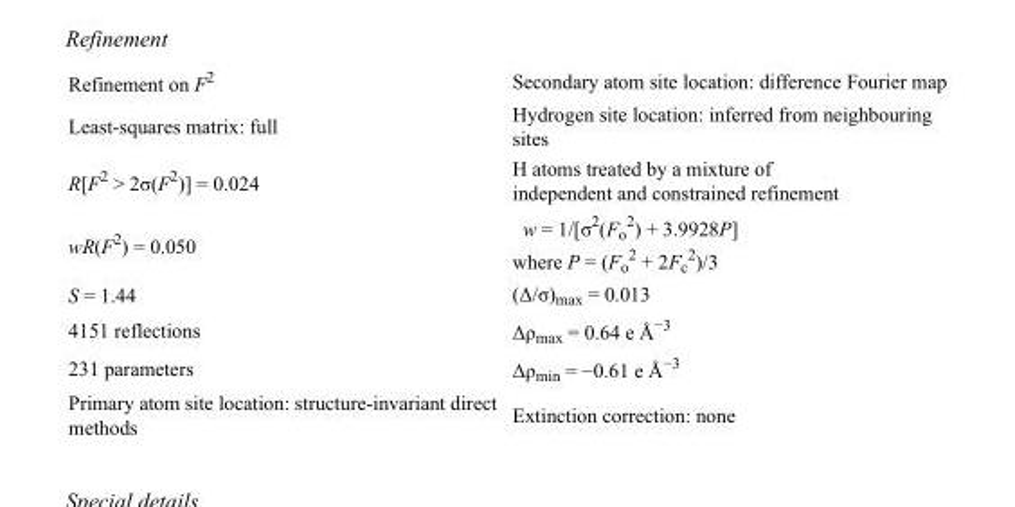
<table><tbody><tr><td>Refinement on F<sup>2</sup></td><td>Secondary atom site location: difference Fourier map</td></tr><tr><td>Least-squares matrix: full</td><td>Hydrogen site location: inferred from neighbouring sites</td></tr><tr><td>R[F<sup>2</sup> &gt; 2σ(F<sup>2</sup>)] = 0.024</td><td>H atoms treated by a mixture of independent and constrained refinement</td></tr><tr><td>wR(F<sup>2</sup>) = 0.050</td><td>w = 1/[σ<sup>2</sup>(F<sub>o</sub> <sup>2</sup>) + 3.9928P] where P = (F<sub>o</sub> <sup>2</sup> + 2F<sub>c</sub> <sup>2</sup>)/3</td></tr><tr><td>S = 1.44</td><td>(Δ/σ)<sub>max</sub> = 0.013</td></tr><tr><td>4151 reflections</td><td>Δρ<sub>max</sub> = 0.64 e Å<sup>−3</sup></td></tr><tr><td>231 parameters</td><td>Δρ<sub>min</sub> = −0.61 e Å<sup>−3</sup></td></tr><tr><td>Primary atom site location: structure-invariant direct methods</td><td>Extinction correction: none</td></tr></tbody></table>